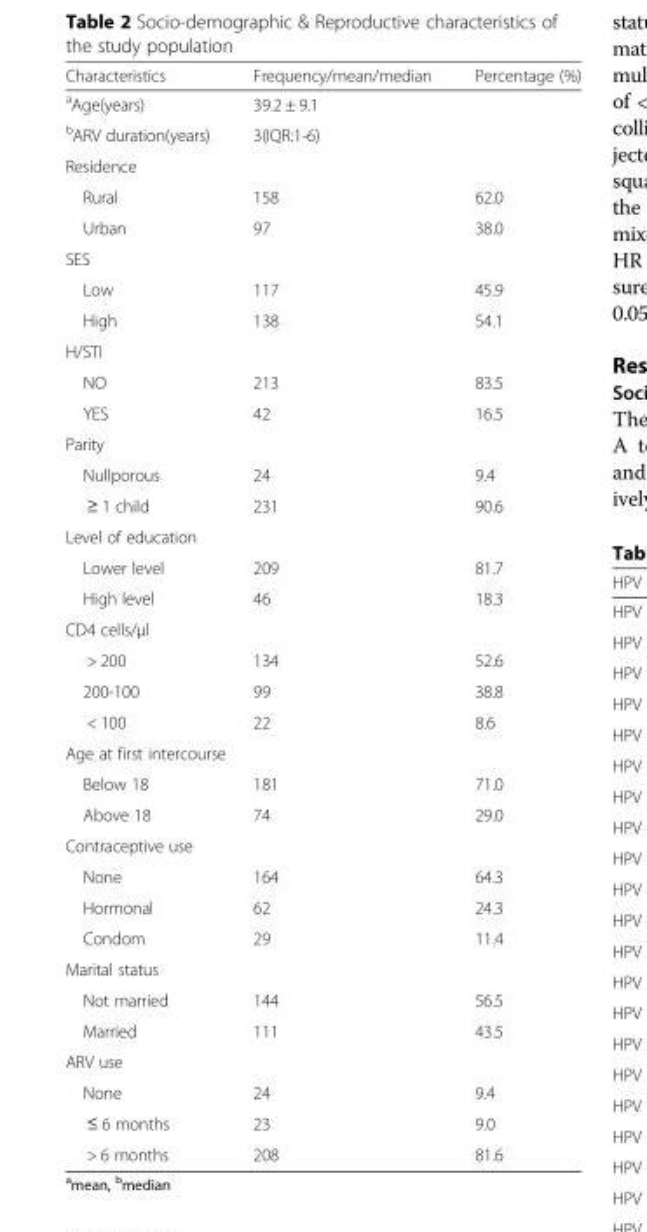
<table><thead><tr><td>Characteristics</td><td>Frequency/mean/median</td><td>Percentage (%)</td></tr></thead><tbody><tr><td><sup>a</sup>Age(years)</td><td>39.2 ± 9.1</td><td></td></tr><tr><td><sup>b</sup>ARV duration(years)</td><td>3(IQR:1-6)</td><td></td></tr><tr><td colspan="3">Residence</td></tr><tr><td>Rural</td><td>158</td><td>62.0</td></tr><tr><td>Urban</td><td>97</td><td>38.0</td></tr><tr><td colspan="3">SES</td></tr><tr><td>Low</td><td>117</td><td>45.9</td></tr><tr><td>High</td><td>138</td><td>54.1</td></tr><tr><td colspan="3">H/STI</td></tr><tr><td>NO</td><td>213</td><td>83.5</td></tr><tr><td>YES</td><td>42</td><td>16.5</td></tr><tr><td colspan="3">Parity</td></tr><tr><td>Nullporous</td><td>24</td><td>9.4</td></tr><tr><td>≥ 1 child</td><td>231</td><td>90.6</td></tr><tr><td colspan="3">Level of education</td></tr><tr><td>Lower level</td><td>209</td><td>81.7</td></tr><tr><td>High level</td><td>46</td><td>18.3</td></tr><tr><td colspan="3">CD4 cells/μl</td></tr><tr><td>&gt; 200</td><td>134</td><td>52.6</td></tr><tr><td>200-100</td><td>99</td><td>38.8</td></tr><tr><td>&lt; 100</td><td>22</td><td>8.6</td></tr><tr><td colspan="3">Age at first intercourse</td></tr><tr><td>Below 18</td><td>181</td><td>71.0</td></tr><tr><td>Above 18</td><td>74</td><td>29.0</td></tr><tr><td colspan="3">Contraceptive use</td></tr><tr><td>None</td><td>164</td><td>64.3</td></tr><tr><td>Hormonal</td><td>62</td><td>24.3</td></tr><tr><td>Condom</td><td>29</td><td>11.4</td></tr><tr><td colspan="3">Marital status</td></tr><tr><td>Not married</td><td>144</td><td>56.5</td></tr><tr><td>Married</td><td>111</td><td>43.5</td></tr><tr><td colspan="3">ARV use</td></tr><tr><td>None</td><td>24</td><td>9.4</td></tr><tr><td>≤ 6 months</td><td>23</td><td>9.0</td></tr><tr><td>&gt; 6 months</td><td>208</td><td>81.6</td></tr></tbody></table>